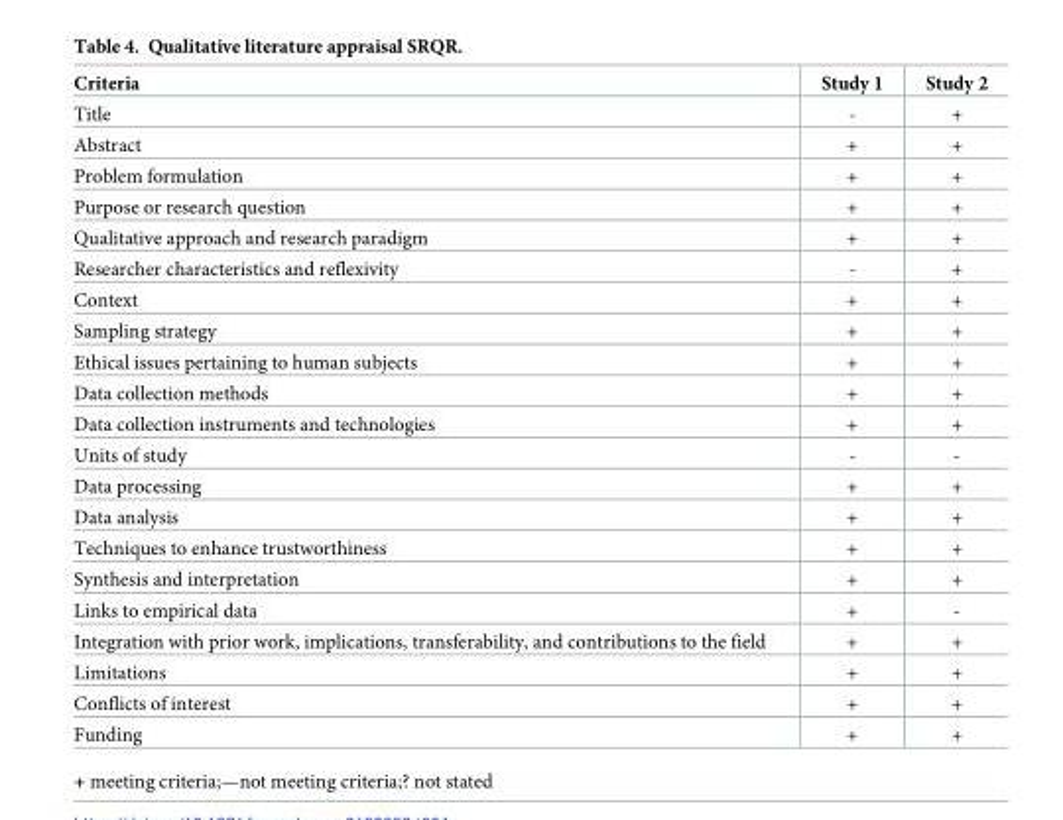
<table><thead><tr><td>Criteria</td><td>Study 1</td><td>Study 2</td></tr></thead><tbody><tr><td>Title</td><td>-</td><td>+</td></tr><tr><td>Abstract</td><td>+</td><td>+</td></tr><tr><td>Problem formulation</td><td>+</td><td>+</td></tr><tr><td>Purpose or research question</td><td>+</td><td>+</td></tr><tr><td>Qualitative approach and research paradigm</td><td>+</td><td>+</td></tr><tr><td>Researcher characteristics and reflexivity</td><td>-</td><td>+</td></tr><tr><td>Context</td><td>+</td><td>+</td></tr><tr><td>Sampling strategy</td><td>+</td><td>+</td></tr><tr><td>Ethical issues pertaining to human subjects</td><td>+</td><td>+</td></tr><tr><td>Data collection methods</td><td>+</td><td>+</td></tr><tr><td>Data collection instruments and technologies</td><td>+</td><td>+</td></tr><tr><td>Units of study</td><td>-</td><td>-</td></tr><tr><td>Data processing</td><td>+</td><td>+</td></tr><tr><td>Data analysis</td><td>+</td><td>+</td></tr><tr><td>Techniques to enhance trustworthiness</td><td>+</td><td>+</td></tr><tr><td>Synthesis and interpretation</td><td>+</td><td>+</td></tr><tr><td>Links to empirical data</td><td>+</td><td>-</td></tr><tr><td>Integration with prior work, implications, transferability, and contributions to the field</td><td>+</td><td>+</td></tr><tr><td>Limitations</td><td>+</td><td>+</td></tr><tr><td>Conflicts of interest</td><td>+</td><td>+</td></tr><tr><td>Funding</td><td>+</td><td>+</td></tr></tbody></table>